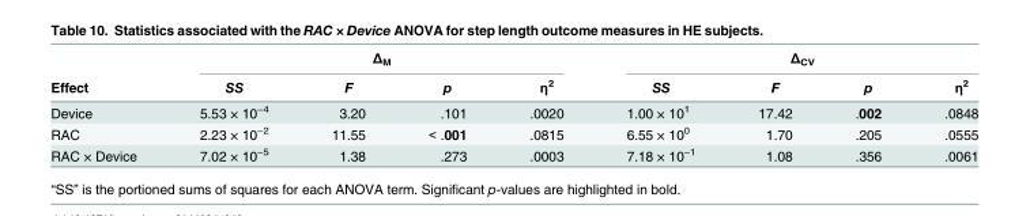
<table><thead><tr><td rowspan="2">Effect</td><td colspan="4">Δ<sub>M</sub></td><td colspan="4">Δ<sub>CV</sub></td></tr><tr><td>SS</td><td>F</td><td>p</td><td>η<sup>2</sup></td><td>SS</td><td>F</td><td>p</td><td>η<sup>2</sup></td></tr></thead><tbody><tr><td>Device</td><td>5.53 × 10<sup>−4</sup></td><td>3.20</td><td>.101</td><td>.0020</td><td>1.00 × 10<sup>1</sup></td><td>17.42</td><td>.002</td><td>.0848</td></tr><tr><td>RAC</td><td>2.23 × 10<sup>−2</sup></td><td>11.55</td><td>&lt; .001</td><td>.0815</td><td>6.55 × 10<sup>0</sup></td><td>1.70</td><td>.205</td><td>.0555</td></tr><tr><td>RAC × Device</td><td>7.02 × 10<sup>−5</sup></td><td>1.38</td><td>.273</td><td>.0003</td><td>7.18 × 10<sup>−1</sup></td><td>1.08</td><td>.356</td><td>.0061</td></tr></tbody></table>